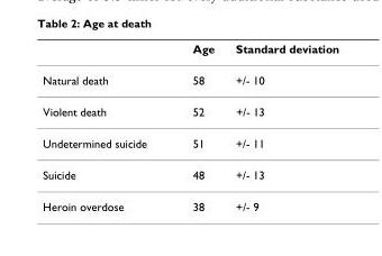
<table><thead><tr><td></td><td>Age</td><td>Standard deviation</td></tr></thead><tbody><tr><td>Natural death</td><td>58</td><td>+/- 10</td></tr><tr><td>Violent death</td><td>52</td><td>+/- 13</td></tr><tr><td>Undetermined suicide</td><td>51</td><td>+/- 11</td></tr><tr><td>Suicide</td><td>48</td><td>+/- 13</td></tr><tr><td>Heroin overdose</td><td>38</td><td>+/- 9</td></tr></tbody></table>